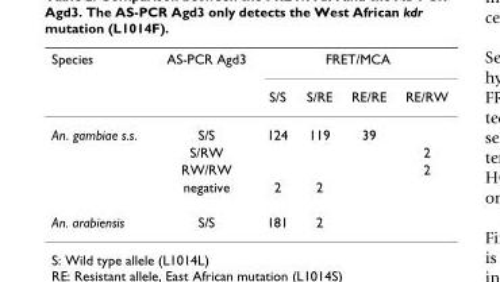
<table><thead><tr><td rowspan="2">Species</td><td rowspan="2">AS-PCR Agd3</td><td colspan="4">FRET/MCA</td></tr><tr><td>S/S</td><td>S/RE</td><td>RE/RE</td><td>RE/RW</td></tr></thead><tbody><tr><td rowspan="4">An. gambiae s.s.</td><td>S/S</td><td>124</td><td>119</td><td>39</td><td></td></tr><tr><td>S/RW</td><td></td><td></td><td></td><td>2</td></tr><tr><td>RW/RW</td><td></td><td></td><td></td><td>2</td></tr><tr><td>negative</td><td>2</td><td>2</td><td></td><td></td></tr><tr><td>An. arabiensis</td><td>S/S</td><td>181</td><td>2</td><td></td><td></td></tr></tbody></table>